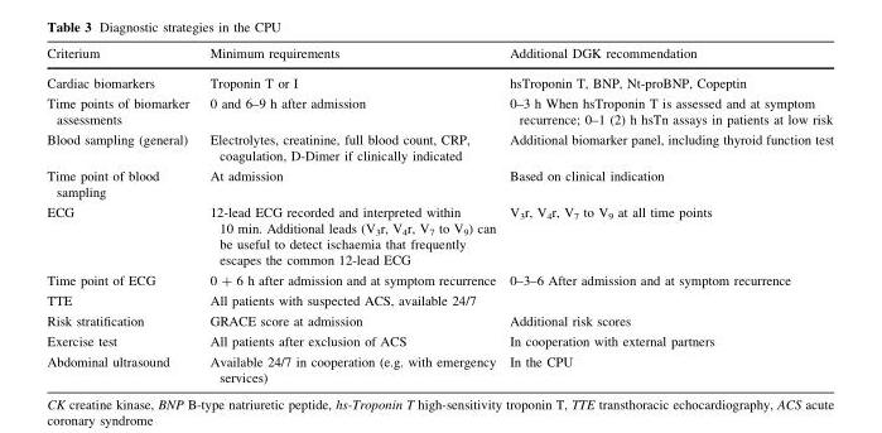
<table><thead><tr><td>Criterium</td><td>Minimum requirements</td><td>Additional DGK recommendation</td></tr></thead><tbody><tr><td>Cardiac biomarkers</td><td>Troponin T or I</td><td>hsTroponin T, BNP, Nt-proBNP, Copeptin</td></tr><tr><td>Time points of biomarker assessments</td><td>0 and 6–9 h after admission</td><td>0–3 h When hsTroponin T is assessed and at symptom recurrence; 0–1 (2) h hsTn assays in patients at low risk</td></tr><tr><td>Blood sampling (general)</td><td>Electrolytes, creatinine, full blood count, CRP, coagulation, D-Dimer if clinically indicated</td><td>Additional biomarker panel, including thyroid function test</td></tr><tr><td>Time point of blood sampling</td><td>At admission</td><td>Based on clinical indication</td></tr><tr><td>ECG</td><td>12-lead ECG recorded and interpreted within 10 min. Additional leads (V<sub>3</sub>r, V<sub>4</sub>r, V<sub>7</sub> to V<sub>9</sub>) can be useful to detect ischaemia that frequently escapes the common 12-lead ECG</td><td>V<sub>3</sub>r, V<sub>4</sub>r, V<sub>7</sub> to V<sub>9</sub> at all time points</td></tr><tr><td>Time point of ECG</td><td>0 + 6 h after admission and at symptom recurrence</td><td>0–3–6 After admission and at symptom recurrence</td></tr><tr><td>TTE</td><td>All patients with suspected ACS, available 24/7</td><td></td></tr><tr><td>Risk stratification</td><td>GRACE score at admission</td><td>Additional risk scores</td></tr><tr><td>Exercise test</td><td>All patients after exclusion of ACS</td><td>In cooperation with external partners</td></tr><tr><td>Abdominal ultrasound</td><td>Available 24/7 in cooperation (e.g. with emergency services)</td><td>In the CPU</td></tr></tbody></table>